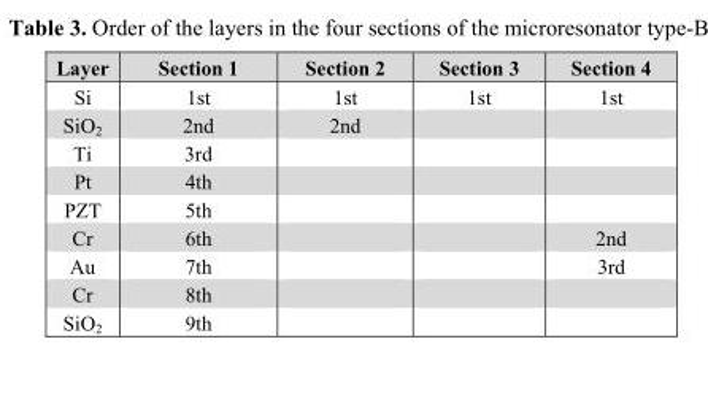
<table><thead><tr><td>Layer</td><td>Section 1</td><td>Section 2</td><td>Section 3</td><td>Section 4</td></tr></thead><tbody><tr><td>Si</td><td>1st</td><td>1st</td><td>1st</td><td>1st</td></tr><tr><td>SiO<sub>2</sub></td><td>2nd</td><td>2nd</td><td></td><td></td></tr><tr><td>Ti</td><td>3rd</td><td></td><td></td><td></td></tr><tr><td>Pt</td><td>4th</td><td></td><td></td><td></td></tr><tr><td>PZT</td><td>5th</td><td></td><td></td><td></td></tr><tr><td>Cr</td><td>6th</td><td></td><td></td><td>2nd</td></tr><tr><td>Au</td><td>7th</td><td></td><td></td><td>3rd</td></tr><tr><td>Cr</td><td>8th</td><td></td><td></td><td></td></tr><tr><td>SiO<sub>2</sub></td><td>9th</td><td></td><td></td><td></td></tr></tbody></table>